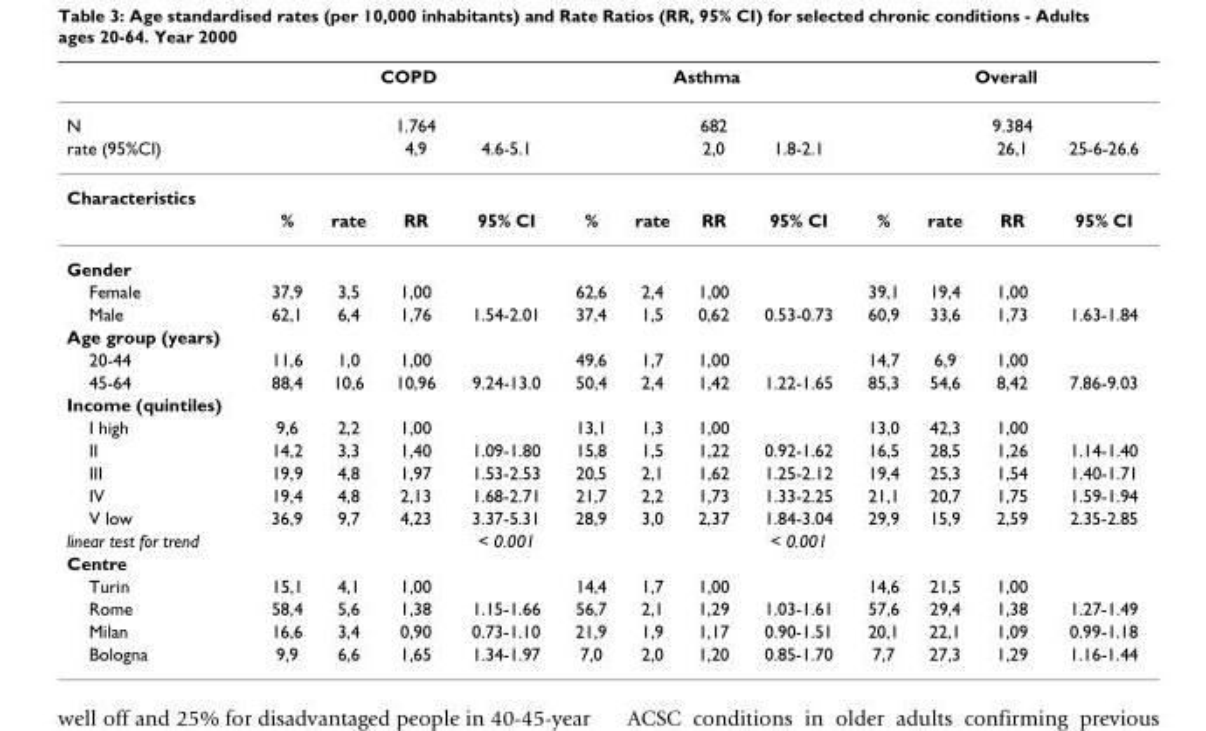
<table><thead><tr><td rowspan="2">N</td><td colspan="4">COPD</td><td colspan="4">Asthma</td><td colspan="4">Overall</td></tr><tr><td></td><td></td><td>1.764</td><td></td><td></td><td></td><td>682</td><td></td><td></td><td></td><td>9.384</td><td></td></tr></thead><tbody><tr><td>rate (95%CI)</td><td></td><td></td><td>4,9</td><td>4.6-5.1</td><td></td><td></td><td>2,0</td><td>1.8-2.1</td><td></td><td></td><td>26,1</td><td>25-6-26.6</td></tr><tr><td colspan="13">Characteristics</td></tr><tr><td></td><td>%</td><td>rate</td><td>RR</td><td>95% CI</td><td>%</td><td>rate</td><td>RR</td><td>95% CI</td><td>%</td><td>rate</td><td>RR</td><td>95% CI</td></tr><tr><td colspan="13">Gender</td></tr><tr><td>Female</td><td>37,9</td><td>3,5</td><td>1,00</td><td></td><td>62,6</td><td>2,4</td><td>1,00</td><td></td><td>39,1</td><td>19,4</td><td>1,00</td><td></td></tr><tr><td>Male</td><td>62,1</td><td>6,4</td><td>1,76</td><td>1.54-2.01</td><td>37,4</td><td>1,5</td><td>0,62</td><td>0.53-0.73</td><td>60,9</td><td>33,6</td><td>1,73</td><td>1.63-1.84</td></tr><tr><td colspan="13">Age group (years)</td></tr><tr><td>20-44</td><td>11,6</td><td>1,0</td><td>1,00</td><td></td><td>49,6</td><td>1,7</td><td>1,00</td><td></td><td>14,7</td><td>6,9</td><td>1,00</td><td></td></tr><tr><td>45-64</td><td>88,4</td><td>10,6</td><td>10,96</td><td>9.24-13.0</td><td>50,4</td><td>2,4</td><td>1,42</td><td>1.22-1.65</td><td>85,3</td><td>54,6</td><td>8,42</td><td>7.86-9.03</td></tr><tr><td colspan="13">Income (quintiles)</td></tr><tr><td>I high</td><td>9,6</td><td>2,2</td><td>1,00</td><td></td><td>13,1</td><td>1,3</td><td>1,00</td><td></td><td>13,0</td><td>42,3</td><td>1,00</td><td></td></tr><tr><td>II</td><td>14,2</td><td>3,3</td><td>1,40</td><td>1.09-1.80</td><td>15,8</td><td>1,5</td><td>1,22</td><td>0.92-1.62</td><td>16,5</td><td>28,5</td><td>1,26</td><td>1.14-1.40</td></tr><tr><td>III</td><td>19,9</td><td>4,8</td><td>1,97</td><td>1.53-2.53</td><td>20,5</td><td>2,1</td><td>1,62</td><td>1.25-2.12</td><td>19,4</td><td>25,3</td><td>1,54</td><td>1.40-1.71</td></tr><tr><td>IV</td><td>19,4</td><td>4,8</td><td>2,13</td><td>1.68-2.71</td><td>21,7</td><td>2,2</td><td>1,73</td><td>1.33-2.25</td><td>21,1</td><td>20,7</td><td>1,75</td><td>1.59-1.94</td></tr><tr><td>V low</td><td>36,9</td><td>9,7</td><td>4,23</td><td>3.37-5.31</td><td>28,9</td><td>3,0</td><td>2,37</td><td>1.84-3.04</td><td>29,9</td><td>15,9</td><td>2,59</td><td>2.35-2.85</td></tr><tr><td>linear test for trend</td><td></td><td></td><td></td><td>&lt; 0.001</td><td></td><td></td><td></td><td>&lt; 0.001</td><td></td><td></td><td></td><td></td></tr><tr><td colspan="13">Centre</td></tr><tr><td>Turin</td><td>15,1</td><td>4,1</td><td>1,00</td><td></td><td>14,4</td><td>1,7</td><td>1,00</td><td></td><td>14,6</td><td>21,5</td><td>1,00</td><td></td></tr><tr><td>Rome</td><td>58,4</td><td>5,6</td><td>1,38</td><td>1.15-1.66</td><td>56,7</td><td>2,1</td><td>1,29</td><td>1.03-1.61</td><td>57,6</td><td>29,4</td><td>1,38</td><td>1.27-1.49</td></tr><tr><td>Milan</td><td>16,6</td><td>3,4</td><td>0,90</td><td>0.73-1.10</td><td>21,9</td><td>1,9</td><td>1,17</td><td>0.90-1.51</td><td>20,1</td><td>22,1</td><td>1,09</td><td>0.99-1.18</td></tr><tr><td>Bologna</td><td>9,9</td><td>6,6</td><td>1,65</td><td>1.34-1.97</td><td>7,0</td><td>2,0</td><td>1,20</td><td>0.85-1.70</td><td>7,7</td><td>27,3</td><td>1,29</td><td>1.16-1.44</td></tr></tbody></table>